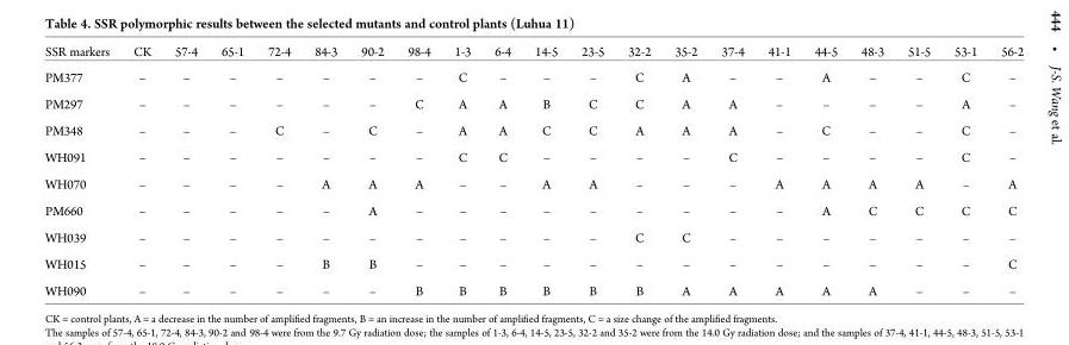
<table><thead><tr><td>SSR markers</td><td>CK</td><td>57-4</td><td>65-1</td><td>72-4</td><td>84-3</td><td>90-2</td><td>98-4</td><td>1-3</td><td>6-4</td><td>14-5</td><td>23-5</td><td>32-2</td><td>35-2</td><td>37-4</td><td>41-1</td><td>44-5</td><td>48-3</td><td>51-5</td><td>53-1</td><td>56-2</td></tr></thead><tbody><tr><td>PM377</td><td>–</td><td>–</td><td>–</td><td>–</td><td>–</td><td>–</td><td>–</td><td>C</td><td>–</td><td>–</td><td>–</td><td>C</td><td>A</td><td>–</td><td>–</td><td>A</td><td>–</td><td>–</td><td>C</td><td>–</td></tr><tr><td>PM297</td><td>–</td><td>–</td><td>–</td><td>–</td><td>–</td><td>–</td><td>C</td><td>A</td><td>A</td><td>B</td><td>C</td><td>C</td><td>A</td><td>A</td><td>–</td><td>–</td><td>–</td><td>–</td><td>A</td><td>–</td></tr><tr><td>PM348</td><td>–</td><td>–</td><td>–</td><td>C</td><td>–</td><td>C</td><td>–</td><td>A</td><td>A</td><td>C</td><td>C</td><td>A</td><td>A</td><td>A</td><td>–</td><td>C</td><td>–</td><td>–</td><td>C</td><td>–</td></tr><tr><td>WH091</td><td>–</td><td>–</td><td>–</td><td>–</td><td>–</td><td>–</td><td>–</td><td>C</td><td>C</td><td>–</td><td>–</td><td>–</td><td>–</td><td>C</td><td>–</td><td>–</td><td>–</td><td>–</td><td>C</td><td>–</td></tr><tr><td>WH070</td><td>–</td><td>–</td><td>–</td><td>–</td><td>A</td><td>A</td><td>A</td><td>–</td><td>–</td><td>A</td><td>A</td><td>–</td><td>–</td><td>–</td><td>A</td><td>A</td><td>A</td><td>A</td><td>–</td><td>A</td></tr><tr><td>PM660</td><td>–</td><td>–</td><td>–</td><td>–</td><td>–</td><td>A</td><td>–</td><td>–</td><td>–</td><td>–</td><td>–</td><td>–</td><td>–</td><td>–</td><td>–</td><td>A</td><td>C</td><td>C</td><td>C</td><td>C</td></tr><tr><td>WH039</td><td>–</td><td>–</td><td>–</td><td>–</td><td>–</td><td>–</td><td>–</td><td>–</td><td>–</td><td>–</td><td>–</td><td>C</td><td>C</td><td>–</td><td>–</td><td>–</td><td>–</td><td>–</td><td>–</td><td>–</td></tr><tr><td>WH015</td><td>–</td><td>–</td><td>–</td><td>–</td><td>B</td><td>B</td><td>–</td><td>–</td><td>–</td><td>–</td><td>–</td><td>–</td><td>–</td><td>–</td><td>–</td><td>–</td><td>–</td><td>–</td><td>–</td><td>C</td></tr><tr><td>WH090</td><td>–</td><td>–</td><td>–</td><td>–</td><td>–</td><td>–</td><td>B</td><td>B</td><td>B</td><td>B</td><td>B</td><td>B</td><td>A</td><td>A</td><td>A</td><td>A</td><td>A</td><td>–</td><td>–</td><td>–</td></tr></tbody></table>